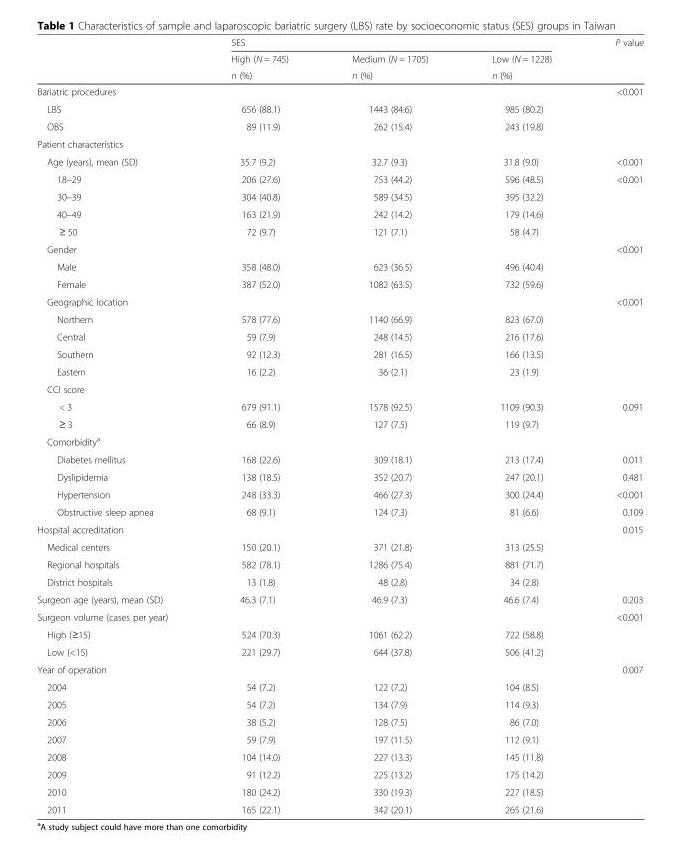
<table><thead><tr><td rowspan="3"></td><td colspan="3">SES</td><td rowspan="3">P value</td></tr><tr><td rowspan="2">High (N = 745) n (%)</td><td rowspan="2">Medium (N = 1705) n (%)</td><td rowspan="2">Low (N = 1228) n (%)</td></tr><tr></tr></thead><tbody><tr><td>Bariatric procedures</td><td colspan="3"></td><td>&lt;0.001</td></tr><tr><td>LBS</td><td>656 (88.1)</td><td>1443 (84.6)</td><td>985 (80.2)</td><td></td></tr><tr><td>OBS</td><td>89 (11.9)</td><td>262 (15.4)</td><td>243 (19.8)</td><td></td></tr><tr><td colspan="5">Patient characteristics</td></tr><tr><td>Age (years), mean (SD)</td><td>35.7 (9.2)</td><td>32.7 (9.3)</td><td>31.8 (9.0)</td><td>&lt;0.001</td></tr><tr><td>18–29</td><td>206 (27.6)</td><td>753 (44.2)</td><td>596 (48.5)</td><td>&lt;0.001</td></tr><tr><td>30–39</td><td>304 (40.8)</td><td>589 (34.5)</td><td>395 (32.2)</td><td></td></tr><tr><td>40–49</td><td>163 (21.9)</td><td>242 (14.2)</td><td>179 (14.6)</td><td></td></tr><tr><td>≥ 50</td><td>72 (9.7)</td><td>121 (7.1)</td><td>58 (4.7)</td><td></td></tr><tr><td>Gender</td><td colspan="3"></td><td>&lt;0.001</td></tr><tr><td>Male</td><td>358 (48.0)</td><td>623 (36.5)</td><td>496 (40.4)</td><td></td></tr><tr><td>Female</td><td>387 (52.0)</td><td>1082 (63.5)</td><td>732 (59.6)</td><td></td></tr><tr><td>Geographic location</td><td colspan="3"></td><td>&lt;0.001</td></tr><tr><td>Northern</td><td>578 (77.6)</td><td>1140 (66.9)</td><td>823 (67.0)</td><td></td></tr><tr><td>Central</td><td>59 (7.9)</td><td>248 (14.5)</td><td>216 (17.6)</td><td></td></tr><tr><td>Southern</td><td>92 (12.3)</td><td>281 (16.5)</td><td>166 (13.5)</td><td></td></tr><tr><td>Eastern</td><td>16 (2.2)</td><td>36 (2.1)</td><td>23 (1.9)</td><td></td></tr><tr><td colspan="5">CCI score</td></tr><tr><td>&lt; 3</td><td>679 (91.1)</td><td>1578 (92.5)</td><td>1109 (90.3)</td><td>0.091</td></tr><tr><td>≥ 3</td><td>66 (8.9)</td><td>127 (7.5)</td><td>119 (9.7)</td><td></td></tr><tr><td colspan="5">Comorbidity<sup>a</sup></td></tr><tr><td>Diabetes mellitus</td><td>168 (22.6)</td><td>309 (18.1)</td><td>213 (17.4)</td><td>0.011</td></tr><tr><td>Dyslipidemia</td><td>138 (18.5)</td><td>352 (20.7)</td><td>247 (20.1)</td><td>0.481</td></tr><tr><td>Hypertension</td><td>248 (33.3)</td><td>466 (27.3)</td><td>300 (24.4)</td><td>&lt;0.001</td></tr><tr><td>Obstructive sleep apnea</td><td>68 (9.1)</td><td>124 (7.3)</td><td>81 (6.6)</td><td>0.109</td></tr><tr><td>Hospital accreditation</td><td colspan="3"></td><td>0.015</td></tr><tr><td>Medical centers</td><td>150 (20.1)</td><td>371 (21.8)</td><td>313 (25.5)</td><td></td></tr><tr><td>Regional hospitals</td><td>582 (78.1)</td><td>1286 (75.4)</td><td>881 (71.7)</td><td></td></tr><tr><td>District hospitals</td><td>13 (1.8)</td><td>48 (2.8)</td><td>34 (2.8)</td><td></td></tr><tr><td>Surgeon age (years), mean (SD)</td><td>46.3 (7.1)</td><td>46.9 (7.3)</td><td>46.6 (7.4)</td><td>0.203</td></tr><tr><td>Surgeon volume (cases per year)</td><td colspan="3"></td><td>&lt;0.001</td></tr><tr><td>High (≥15)</td><td>524 (70.3)</td><td>1061 (62.2)</td><td>722 (58.8)</td><td></td></tr><tr><td>Low (&lt;15)</td><td>221 (29.7)</td><td>644 (37.8)</td><td>506 (41.2)</td><td></td></tr><tr><td>Year of operation</td><td colspan="3"></td><td>0.007</td></tr><tr><td>2004</td><td>54 (7.2)</td><td>122 (7.2)</td><td>104 (8.5)</td><td></td></tr><tr><td>2005</td><td>54 (7.2)</td><td>134 (7.9)</td><td>114 (9.3)</td><td></td></tr><tr><td>2006</td><td>38 (5.2)</td><td>128 (7.5)</td><td>86 (7.0)</td><td></td></tr><tr><td>2007</td><td>59 (7.9)</td><td>197 (11.5)</td><td>112 (9.1)</td><td></td></tr><tr><td>2008</td><td>104 (14.0)</td><td>227 (13.3)</td><td>145 (11.8)</td><td></td></tr><tr><td>2009</td><td>91 (12.2)</td><td>225 (13.2)</td><td>175 (14.2)</td><td></td></tr><tr><td>2010</td><td>180 (24.2)</td><td>330 (19.3)</td><td>227 (18.5)</td><td></td></tr><tr><td>2011</td><td>165 (22.1)</td><td>342 (20.1)</td><td>265 (21.6)</td><td></td></tr></tbody></table>